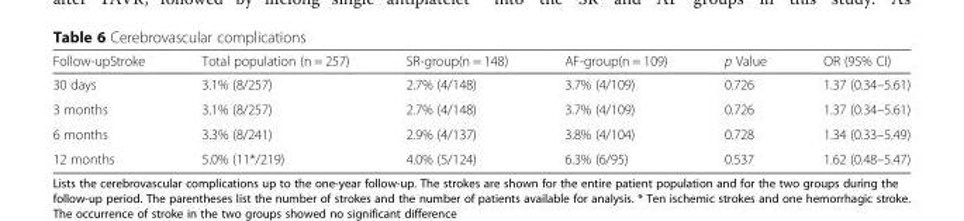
<table><thead><tr><td>Follow-upStroke</td><td>Total population (n = 257)</td><td>SR-group(n = 148)</td><td>AF-group(n = 109)</td><td>p Value</td><td>OR (95% CI)</td></tr></thead><tbody><tr><td>30 days</td><td>3.1% (8/257)</td><td>2.7% (4/148)</td><td>3.7% (4/109)</td><td>0.726</td><td>1.37 (0.34–5.61)</td></tr><tr><td>3 months</td><td>3.1% (8/257)</td><td>2.7% (4/148)</td><td>3.7% (4/109)</td><td>0.726</td><td>1.37 (0.34–5.61)</td></tr><tr><td>6 months</td><td>3.3% (8/241)</td><td>2.9% (4/137)</td><td>3.8% (4/104)</td><td>0.728</td><td>1.34 (0.33–5.49)</td></tr><tr><td>12 months</td><td>5.0% (11*/219)</td><td>4.0% (5/124)</td><td>6.3% (6/95)</td><td>0.537</td><td>1.62 (0.48–5.47)</td></tr></tbody></table>